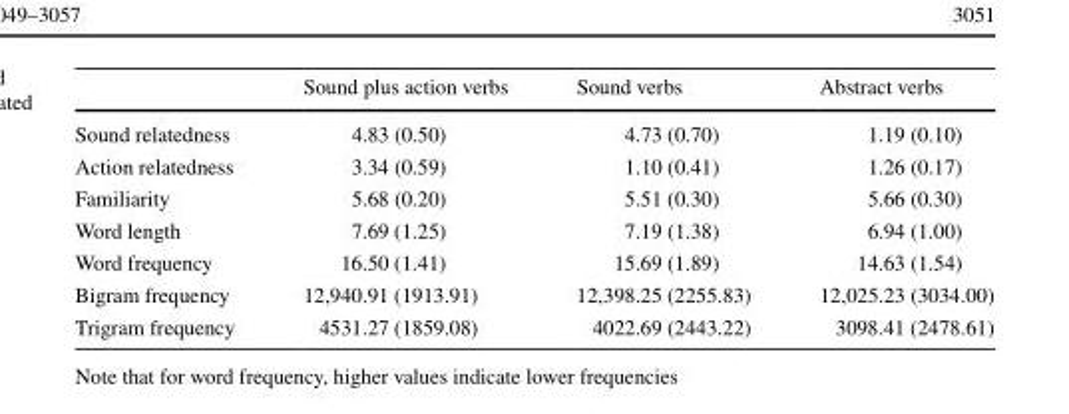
<table><thead><tr><td></td><td>Sound plus action verbs</td><td>Sound verbs</td><td>Abstract verbs</td></tr></thead><tbody><tr><td>Sound relatedness</td><td>4.83 (0.50)</td><td>4.73 (0.70)</td><td>1.19 (0.10)</td></tr><tr><td>Action relatedness</td><td>3.34 (0.59)</td><td>1.10 (0.41)</td><td>1.26 (0.17)</td></tr><tr><td>Familiarity</td><td>5.68 (0.20)</td><td>5.51 (0.30)</td><td>5.66 (0.30)</td></tr><tr><td>Word length</td><td>7.69 (1.25)</td><td>7.19 (1.38)</td><td>6.94 (1.00)</td></tr><tr><td>Word frequency</td><td>16.50 (1.41)</td><td>15.69 (1.89)</td><td>14.63 (1.54)</td></tr><tr><td>Bigram frequency</td><td>12,940.91 (1913.91)</td><td>12,398.25 (2255.83)</td><td>12,025.23 (3034.00)</td></tr><tr><td>Trigram frequency</td><td>4531.27 (1859.08)</td><td>4022.69 (2443.22)</td><td>3098.41 (2478.61)</td></tr></tbody></table>